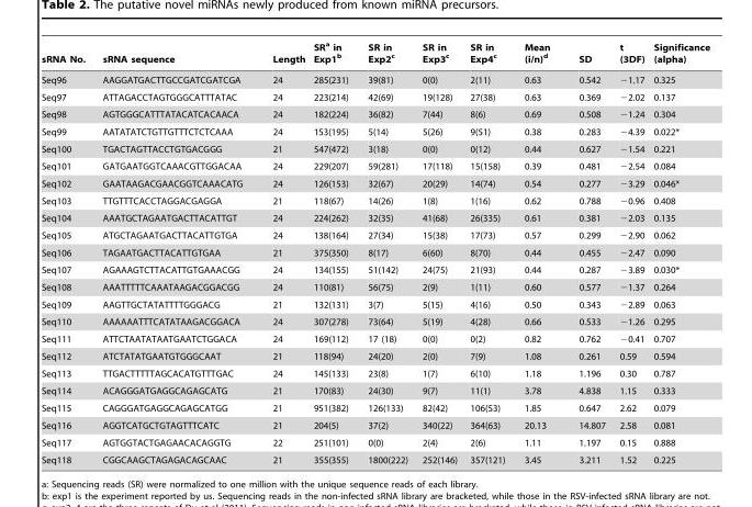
<table><thead><tr><td>sRNA No.</td><td>sRNA sequence</td><td>Length</td><td>SR<sup>a</sup> in Exp1<sup>b</sup></td><td>SR in Exp2<sup>c</sup></td><td>SR in Exp3<sup>c</sup></td><td>SR in Exp4<sup>c</sup></td><td>Mean (i/n)<sup>d</sup></td><td>SD</td><td>t (3DF)</td><td>Significance (alpha)</td></tr></thead><tbody><tr><td>Seq96</td><td>AAGGATGACTTGCCGATCGATCGA</td><td>24</td><td>285(231)</td><td>39(81)</td><td>0(0)</td><td>2(11)</td><td>0.63</td><td>0.542</td><td>−1.17</td><td>0.325</td></tr><tr><td>Seq97</td><td>ATTAGACCTAGTGGGCATTTATAC</td><td>24</td><td>223(214)</td><td>42(69)</td><td>19(128)</td><td>27(38)</td><td>0.63</td><td>0.369</td><td>−2.02</td><td>0.137</td></tr><tr><td>Seq98</td><td>AGTGGGCATTTATACATCACAACA</td><td>24</td><td>182(224)</td><td>36(82)</td><td>7(44)</td><td>8(6)</td><td>0.69</td><td>0.508</td><td>−1.24</td><td>0.304</td></tr><tr><td>Seq99</td><td>AATATATCTGTTGTTTCTCTCAAA</td><td>24</td><td>153(195)</td><td>5(14)</td><td>5(26)</td><td>9(51)</td><td>0.38</td><td>0.283</td><td>−4.39</td><td>0.022*</td></tr><tr><td>Seq100</td><td>TGACTAGTTACCTGTGACGGG</td><td>21</td><td>547(472)</td><td>3(18)</td><td>0(0)</td><td>0(12)</td><td>0.44</td><td>0.627</td><td>−1.54</td><td>0.221</td></tr><tr><td>Seq101</td><td>GATGAATGGTCAAACGTTGGACAA</td><td>24</td><td>229(207)</td><td>59(281)</td><td>17(118)</td><td>15(158)</td><td>0.39</td><td>0.481</td><td>−2.54</td><td>0.084</td></tr><tr><td>Seq102</td><td>GAATAAGACGAACGGTCAAACATG</td><td>24</td><td>126(153)</td><td>32(67)</td><td>20(29)</td><td>14(74)</td><td>0.54</td><td>0.277</td><td>−3.29</td><td>0.046*</td></tr><tr><td>Seq103</td><td>TTGTTTCACCTAGGACGAGGA</td><td>21</td><td>118(67)</td><td>14(26)</td><td>1(8)</td><td>1(16)</td><td>0.62</td><td>0.788</td><td>−0.96</td><td>0.408</td></tr><tr><td>Seq104</td><td>AAATGCTAGAATGACTTACATTGT</td><td>24</td><td>224(262)</td><td>32(35)</td><td>41(68)</td><td>26(335)</td><td>0.61</td><td>0.381</td><td>−2.03</td><td>0.135</td></tr><tr><td>Seq105</td><td>ATGCTAGAATGACTTACATTGTGA</td><td>24</td><td>138(164)</td><td>27(34)</td><td>15(38)</td><td>17(73)</td><td>0.57</td><td>0.299</td><td>−2.90</td><td>0.062</td></tr><tr><td>Seq106</td><td>TAGAATGACTTACATTGTGAA</td><td>21</td><td>375(350)</td><td>8(17)</td><td>6(60)</td><td>8(70)</td><td>0.44</td><td>0.455</td><td>−2.47</td><td>0.090</td></tr><tr><td>Seq107</td><td>AGAAAGTCTTACATTGTGAAACGG</td><td>24</td><td>134(155)</td><td>51(142)</td><td>24(75)</td><td>21(93)</td><td>0.44</td><td>0.287</td><td>−3.89</td><td>0.030*</td></tr><tr><td>Seq108</td><td>AAATTTTTCAAATAAGACGGACGG</td><td>24</td><td>110(81)</td><td>56(75)</td><td>2(9)</td><td>1(11)</td><td>0.60</td><td>0.577</td><td>−1.37</td><td>0.264</td></tr><tr><td>Seq109</td><td>AAGTTGCTATATTTTGGGACG</td><td>21</td><td>132(131)</td><td>3(7)</td><td>5(15)</td><td>4(16)</td><td>0.50</td><td>0.343</td><td>−2.89</td><td>0.063</td></tr><tr><td>Seq110</td><td>AAAAAATTTCATATAAGACGGACA</td><td>24</td><td>307(278)</td><td>73(64)</td><td>5(19)</td><td>4(28)</td><td>0.66</td><td>0.533</td><td>−1.26</td><td>0.295</td></tr><tr><td>Seq111</td><td>ATTCTAATATAATGAATCTGGACA</td><td>24</td><td>169(112)</td><td>17 (18)</td><td>0(0)</td><td>0(2)</td><td>0.82</td><td>0.762</td><td>−0.41</td><td>0.707</td></tr><tr><td>Seq112</td><td>ATCTATATGAATGTGGGCAAT</td><td>21</td><td>118(94)</td><td>24(20)</td><td>2(0)</td><td>7(9)</td><td>1.08</td><td>0.261</td><td>0.59</td><td>0.594</td></tr><tr><td>Seq113</td><td>TTGACTTTTTAGCACATGTTTGAC</td><td>24</td><td>145(133)</td><td>23(8)</td><td>1(7)</td><td>6(10)</td><td>1.18</td><td>1.196</td><td>0.30</td><td>0.787</td></tr><tr><td>Seq114</td><td>ACAGGGATGAGGCAGAGCATG</td><td>21</td><td>170(83)</td><td>24(30)</td><td>9(7)</td><td>11(1)</td><td>3.78</td><td>4.838</td><td>1.15</td><td>0.333</td></tr><tr><td>Seq115</td><td>CAGGGATGAGGCAGAGCATGG</td><td>21</td><td>951(382)</td><td>126(133)</td><td>82(42)</td><td>106(53)</td><td>1.85</td><td>0.647</td><td>2.62</td><td>0.079</td></tr><tr><td>Seq116</td><td>AGGTCATGCTGTAGTTTCATC</td><td>21</td><td>204(5)</td><td>37(2)</td><td>340(22)</td><td>364(63)</td><td>20.13</td><td>14.807</td><td>2.58</td><td>0.081</td></tr><tr><td>Seq117</td><td>AGTGGTACTGAGAACACAGGTG</td><td>22</td><td>251(101)</td><td>0(0)</td><td>2(4)</td><td>2(6)</td><td>1.11</td><td>1.197</td><td>0.15</td><td>0.888</td></tr><tr><td>Seq118</td><td>CGGCAAGCTAGAGACAGCAAC</td><td>21</td><td>355(355)</td><td>1800(222)</td><td>252(146)</td><td>357(121)</td><td>3.45</td><td>3.211</td><td>1.52</td><td>0.225</td></tr></tbody></table>